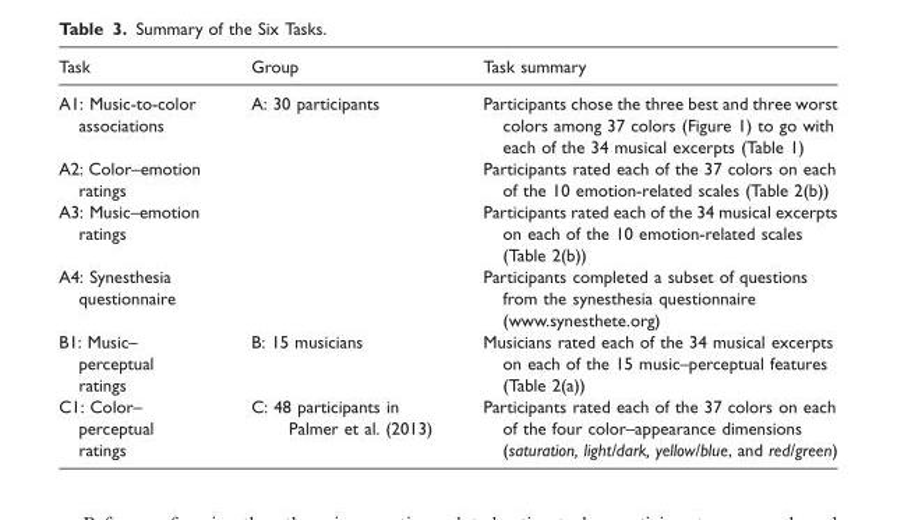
<table><thead><tr><td>Task</td><td>Group</td><td>Task summary</td></tr></thead><tbody><tr><td>A1: Music-to-color associations</td><td rowspan="4">A: 30 participants</td><td>Participants chose the three best and three worst colors among 37 colors (Figure 1) to go with each of the 34 musical excerpts (Table 1)</td></tr><tr><td>A2: Color–emotion ratings</td><td>Participants rated each of the 37 colors on each of the 10 emotion-related scales (Table 2(b))</td></tr><tr><td>A3: Music–emotion ratings</td><td>Participants rated each of the 34 musical excerpts on each of the 10 emotion-related scales (Table 2(b))</td></tr><tr><td>A4: Synesthesia questionnaire</td><td>Participants completed a subset of questions from the synesthesia questionnaire (www.synesthete.org)</td></tr><tr><td>B1: Music– perceptual ratings</td><td>B: 15 musicians</td><td>Musicians rated each of the 34 musical excerpts on each of the 15 music–perceptual features (Table 2(a))</td></tr><tr><td>C1: Color– perceptual ratings</td><td>C: 48 participants in Palmer et al. (2013)</td><td>Participants rated each of the 37 colors on each of the four color–appearance dimensions (saturation, light/dark, yellow/blue, and red/green)</td></tr></tbody></table>